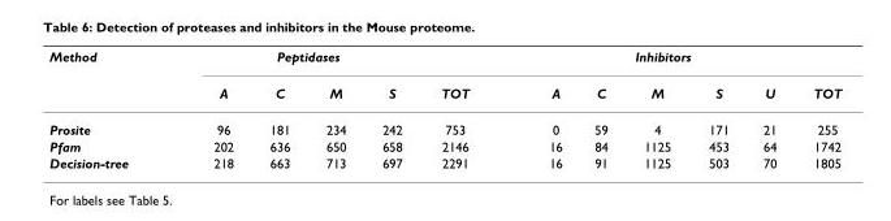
<table><thead><tr><td rowspan="2">Method</td><td colspan="4">Peptidases</td><td rowspan="2">TOT</td><td colspan="5">Inhibitors</td><td rowspan="2">TOT</td></tr><tr><td>A</td><td>C</td><td>M</td><td>S</td><td>A</td><td>C</td><td>M</td><td>S</td><td>U</td></tr></thead><tbody><tr><td>Prosite</td><td>96</td><td>181</td><td>234</td><td>242</td><td>753</td><td>0</td><td>59</td><td>4</td><td>171</td><td>21</td><td>255</td></tr><tr><td>Pfam</td><td>202</td><td>636</td><td>650</td><td>658</td><td>2146</td><td>16</td><td>84</td><td>1125</td><td>453</td><td>64</td><td>1742</td></tr><tr><td>Decision-tree</td><td>218</td><td>663</td><td>713</td><td>697</td><td>2291</td><td>16</td><td>91</td><td>1125</td><td>503</td><td>70</td><td>1805</td></tr></tbody></table>